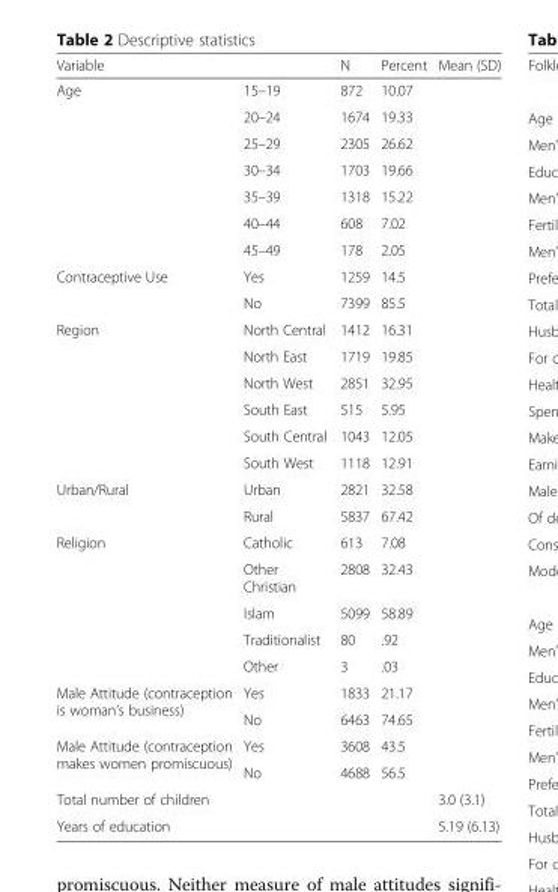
<table><thead><tr><td>Variable</td><td></td><td>N</td><td>Percent</td><td>Mean (SD)</td></tr></thead><tbody><tr><td rowspan="7">Age</td><td>15–19</td><td>872</td><td>10.07</td><td></td></tr><tr><td>20–24</td><td>1674</td><td>19.33</td><td></td></tr><tr><td>25–29</td><td>2305</td><td>26.62</td><td></td></tr><tr><td>30–34</td><td>1703</td><td>19.66</td><td></td></tr><tr><td>35–39</td><td>1318</td><td>15.22</td><td></td></tr><tr><td>40–44</td><td>608</td><td>7.02</td><td></td></tr><tr><td>45–49</td><td>178</td><td>2.05</td><td></td></tr><tr><td rowspan="2">Contraceptive Use</td><td>Yes</td><td>1259</td><td>14.5</td><td></td></tr><tr><td>No</td><td>7399</td><td>85.5</td><td></td></tr><tr><td rowspan="6">Region</td><td>North Central</td><td>1412</td><td>16.31</td><td></td></tr><tr><td>North East</td><td>1719</td><td>19.85</td><td></td></tr><tr><td>North West</td><td>2851</td><td>32.95</td><td></td></tr><tr><td>South East</td><td>515</td><td>5.95</td><td></td></tr><tr><td>South Central</td><td>1043</td><td>12.05</td><td></td></tr><tr><td>South West</td><td>1118</td><td>12.91</td><td></td></tr><tr><td rowspan="2">Urban/Rural</td><td>Urban</td><td>2821</td><td>32.58</td><td></td></tr><tr><td>Rural</td><td>5837</td><td>67.42</td><td></td></tr><tr><td rowspan="5">Religion</td><td>Catholic</td><td>613</td><td>7.08</td><td></td></tr><tr><td>Other Christian</td><td>2808</td><td>32.43</td><td></td></tr><tr><td>Islam</td><td>5099</td><td>58.89</td><td></td></tr><tr><td>Traditionalist</td><td>80</td><td>.92</td><td></td></tr><tr><td>Other</td><td>3</td><td>.03</td><td></td></tr><tr><td rowspan="2">Male Attitude (contraception is woman’s business)</td><td>Yes</td><td>1833</td><td>21.17</td><td></td></tr><tr><td>No</td><td>6463</td><td>74.65</td><td></td></tr><tr><td rowspan="2">Male Attitude (contraception makes women promiscuous)</td><td>Yes</td><td>3608</td><td>43.5</td><td></td></tr><tr><td>No</td><td>4688</td><td>56.5</td><td></td></tr><tr><td>Total number of children</td><td></td><td></td><td></td><td>3.0 (3.1)</td></tr><tr><td>Years of education</td><td></td><td></td><td></td><td>5.19 (6.13)</td></tr></tbody></table>